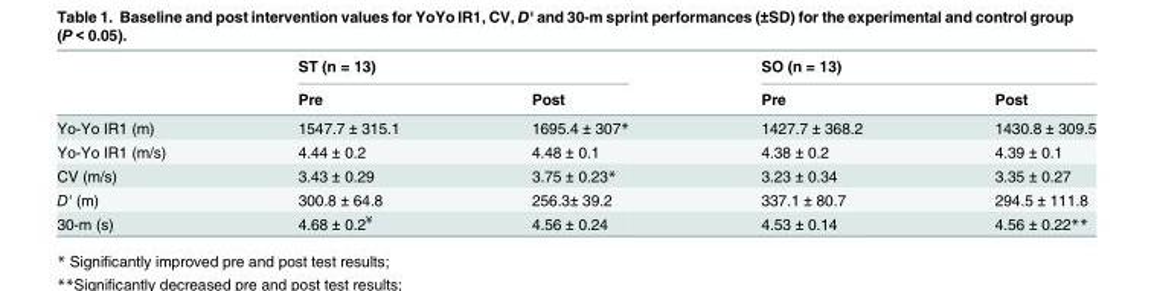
<table><thead><tr><td rowspan="2"></td><td colspan="2">ST (n = 13)</td><td colspan="2">SO (n = 13)</td></tr><tr><td>Pre</td><td>Post</td><td>Pre</td><td>Post</td></tr></thead><tbody><tr><td>Yo-Yo IR1 (m)</td><td>1547.7 ± 315.1</td><td>1695.4 ± 307*</td><td>1427.7 ± 368.2</td><td>1430.8 ± 309.5</td></tr><tr><td>Yo-Yo IR1 (m/s)</td><td>4.44 ± 0.2</td><td>4.48 ± 0.1</td><td>4.38 ± 0.2</td><td>4.39 ± 0.1</td></tr><tr><td>CV (m/s)</td><td>3.43 ± 0.29</td><td>3.75 ± 0.23*</td><td>3.23 ± 0.34</td><td>3.35 ± 0.27</td></tr><tr><td>D&#x27; (m)</td><td>300.8 ± 64.8</td><td>256.3± 39.2</td><td>337.1 ± 80.7</td><td>294.5 ± 111.8</td></tr><tr><td>30-m (s)</td><td>4.68 ± 0.2<sup>¥</sup></td><td>4.56 ± 0.24</td><td>4.53 ± 0.14</td><td>4.56 ± 0.22**</td></tr></tbody></table>